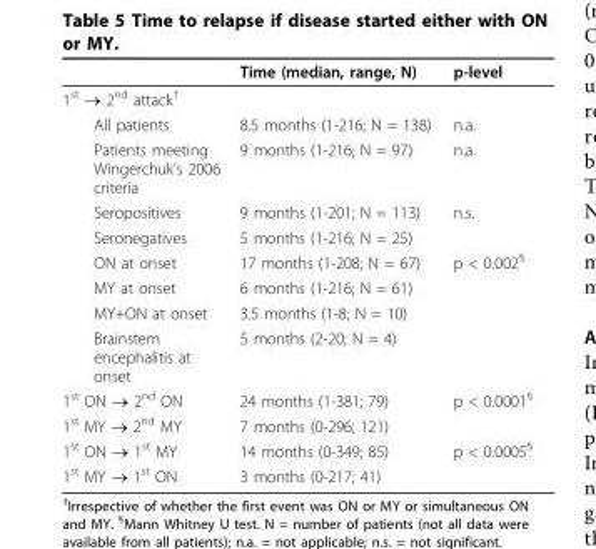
<table><thead><tr><td></td><td>Time (median, range, N)</td><td>p-level</td></tr></thead><tbody><tr><td colspan="3">1<sup>st</sup> → 2<sup>nd</sup> attack<sup>†</sup></td></tr><tr><td>All patients</td><td>8.5 months (1-216; N = 138)</td><td>n.a.</td></tr><tr><td>Patients meeting Wingerchuk’s 2006 criteria</td><td>9 months (1-216; N = 97)</td><td>n.a.</td></tr><tr><td>Seropositives</td><td>9 months (1-201; N = 113)</td><td>n.s.</td></tr><tr><td>Seronegatives</td><td>5 months (1-216; N = 25)</td><td></td></tr><tr><td>ON at onset</td><td>17 months (1-208; N = 67)</td><td>p &lt; 0.002<sup>§</sup></td></tr><tr><td>MY at onset</td><td>6 months (1-216; N = 61)</td><td></td></tr><tr><td>MY+ON at onset</td><td>3.5 months (1-8; N = 10)</td><td></td></tr><tr><td>Brainstem encephalitis at onset</td><td>5 months (2-20; N = 4)</td><td></td></tr><tr><td>1<sup>st</sup> ON → 2<sup>nd</sup> ON</td><td>24 months (1-381; 79)</td><td>p &lt; 0.0001<sup>§</sup></td></tr><tr><td>1<sup>st</sup> MY → 2<sup>nd</sup> MY</td><td>7 months (0-296; 121)</td><td></td></tr><tr><td>1<sup>st</sup> ON → 1<sup>st</sup> MY</td><td>14 months (0-349; 85)</td><td>p &lt; 0.0005<sup>§</sup></td></tr><tr><td>1<sup>st</sup> MY → 1<sup>st</sup> ON</td><td>3 months (0-217; 41)</td><td></td></tr></tbody></table>